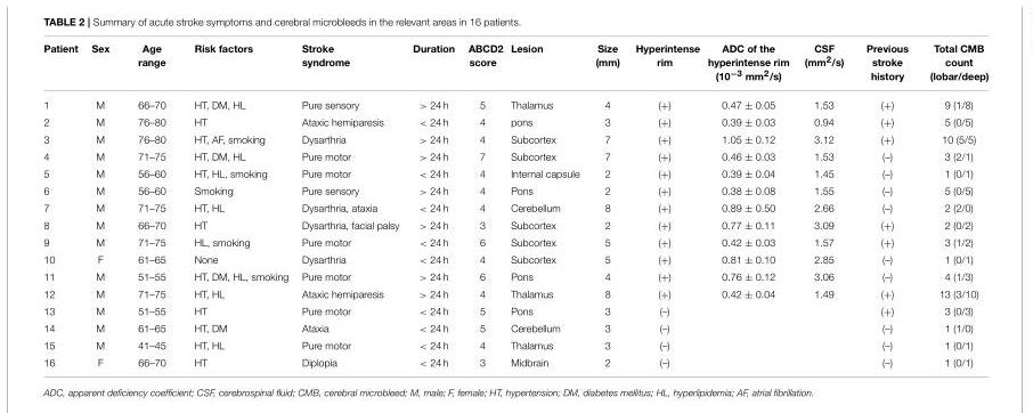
<table><thead><tr><td>Patient</td><td>Sex</td><td>Age range</td><td>Risk factors</td><td>Stroke syndrome</td><td>Duration</td><td>ABCD2 score</td><td>Lesion</td><td>Size (mm)</td><td>Hyperintense rim</td><td>ADC of the hyperintense rim (10<sup>−3</sup> mm<sup>2</sup>/s)</td><td>CSF (mm<sup>2</sup>/s)</td><td>Previous stroke history</td><td>Total CMB count (lobar/deep)</td></tr></thead><tbody><tr><td>1</td><td>M</td><td>66–70</td><td>HT, DM, HL</td><td>Pure sensory</td><td>&gt; 24 h</td><td>5</td><td>Thalamus</td><td>4</td><td>(+)</td><td>0.47 ± 0.05</td><td>1.53</td><td>(+)</td><td>9 (1/8)</td></tr><tr><td>2</td><td>M</td><td>76–80</td><td>HT</td><td>Ataxic hemiparesis</td><td>&lt; 24 h</td><td>4</td><td>pons</td><td>3</td><td>(+)</td><td>0.39 ± 0.03</td><td>0.94</td><td>(+)</td><td>5 (0/5)</td></tr><tr><td>3</td><td>M</td><td>76–80</td><td>HT, AF, smoking</td><td>Dysarthria</td><td>&gt; 24 h</td><td>4</td><td>Subcortex</td><td>7</td><td>(+)</td><td>1.05 ± 0.12</td><td>3.12</td><td>(+)</td><td>10 (5/5)</td></tr><tr><td>4</td><td>M</td><td>71–75</td><td>HT, DM, HL</td><td>Pure motor</td><td>&gt; 24 h</td><td>7</td><td>Subcortex</td><td>7</td><td>(+)</td><td>0.46 ± 0.03</td><td>1.53</td><td>(–)</td><td>3 (2/1)</td></tr><tr><td>5</td><td>M</td><td>56–60</td><td>HT, HL, smoking</td><td>Pure motor</td><td>&lt; 24 h</td><td>4</td><td>Internal capsule</td><td>2</td><td>(+)</td><td>0.39 ± 0.04</td><td>1.45</td><td>(–)</td><td>1 (0/1)</td></tr><tr><td>6</td><td>M</td><td>56–60</td><td>Smoking</td><td>Pure sensory</td><td>&gt; 24 h</td><td>4</td><td>Pons</td><td>2</td><td>(+)</td><td>0.38 ± 0.08</td><td>1.55</td><td>(–)</td><td>5 (0/5)</td></tr><tr><td>7</td><td>M</td><td>71–75</td><td>HT, HL</td><td>Dysarthria, ataxia</td><td>&lt; 24 h</td><td>4</td><td>Cerebellum</td><td>8</td><td>(+)</td><td>0.89 ± 0.50</td><td>2.66</td><td>(–)</td><td>2 (2/0)</td></tr><tr><td>8</td><td>M</td><td>66–70</td><td>HT</td><td>Dysarthria, facial palsy</td><td>&gt; 24 h</td><td>3</td><td>Subcortex</td><td>2</td><td>(+)</td><td>0.77 ± 0.11</td><td>3.09</td><td>(+)</td><td>2 (0/2)</td></tr><tr><td>9</td><td>M</td><td>71–75</td><td>HL, smoking</td><td>Pure motor</td><td>&lt; 24 h</td><td>6</td><td>Subcortex</td><td>5</td><td>(+)</td><td>0.42 ± 0.03</td><td>1.57</td><td>(+)</td><td>3 (1/2)</td></tr><tr><td>10</td><td>F</td><td>61–65</td><td>None</td><td>Dysarthria</td><td>&lt; 24 h</td><td>4</td><td>Subcortex</td><td>5</td><td>(+)</td><td>0.81 ± 0.10</td><td>2.85</td><td>(–)</td><td>1 (0/1)</td></tr><tr><td>11</td><td>M</td><td>51–55</td><td>HT, DM, HL, smoking</td><td>Pure motor</td><td>&gt; 24 h</td><td>6</td><td>Pons</td><td>4</td><td>(+)</td><td>0.76 ± 0.12</td><td>3.06</td><td>(–)</td><td>4 (1/3)</td></tr><tr><td>12</td><td>M</td><td>71–75</td><td>HT, HL</td><td>Ataxic hemiparesis</td><td>&gt; 24 h</td><td>4</td><td>Thalamus</td><td>8</td><td>(+)</td><td>0.42 ± 0.04</td><td>1.49</td><td>(+)</td><td>13 (3/10)</td></tr><tr><td>13</td><td>M</td><td>51–55</td><td>HT</td><td>Pure motor</td><td>&lt; 24 h</td><td>5</td><td>Pons</td><td>3</td><td>(–)</td><td></td><td></td><td>(+)</td><td>3 (0/3)</td></tr><tr><td>14</td><td>M</td><td>61–65</td><td>HT, DM</td><td>Ataxia</td><td>&lt; 24 h</td><td>5</td><td>Cerebellum</td><td>3</td><td>(–)</td><td></td><td></td><td>(–)</td><td>1 (1/0)</td></tr><tr><td>15</td><td>M</td><td>41–45</td><td>HT, HL</td><td>Pure motor</td><td>&lt; 24 h</td><td>4</td><td>Thalamus</td><td>3</td><td>(–)</td><td></td><td></td><td>(–)</td><td>1 (0/1)</td></tr><tr><td>16</td><td>F</td><td>66–70</td><td>HT</td><td>Diplopia</td><td>&lt; 24 h</td><td>3</td><td>Midbrain</td><td>2</td><td>(–)</td><td></td><td></td><td>(–)</td><td>1 (0/1)</td></tr></tbody></table>